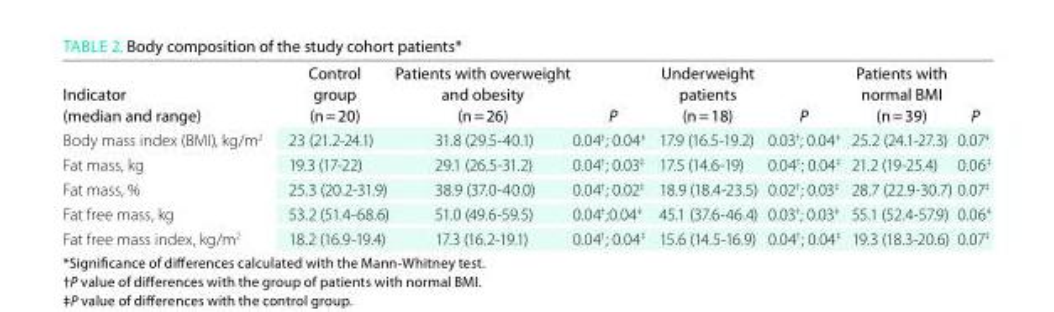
<table><thead><tr><td>indicator (median and range)</td><td>Control group (n = 20)</td><td>Patients with overweight and obesity (n = 26)</td><td>P</td><td>underweight patients (n = 18)</td><td>P</td><td>Patients with normal bMi (n = 39)</td><td>P</td></tr></thead><tbody><tr><td>Body mass index (BMI), kg/m<sup>2</sup></td><td>23 (21.2-24.1)</td><td>31.8 (29.5-40.1)</td><td>0.04<sup>†</sup>; 0.04<sup>‡</sup></td><td>17.9 (16.5-19.2)</td><td>0.03<sup>†</sup>; 0.04<sup>‡</sup></td><td>25.2 (24.1-27.3)</td><td>0.07<sup>‡</sup></td></tr><tr><td>Fat mass, kg</td><td>19.3 (17-22)</td><td>29.1 (26.5-31.2)</td><td>0.04<sup>†</sup>; 0.03<sup>‡</sup></td><td>17.5 (14.6-19)</td><td>0.04<sup>†</sup>; 0.04<sup>‡</sup></td><td>21.2 (19-25.4)</td><td>0.06<sup>‡</sup></td></tr><tr><td>Fat mass, %</td><td>25.3 (20.2-31.9)</td><td>38.9 (37.0-40.0)</td><td>0.04<sup>†</sup>; 0.02<sup>‡</sup></td><td>18.9 (18.4-23.5)</td><td>0.02<sup>†</sup>; 0.03<sup>‡</sup></td><td>28.7 (22.9-30.7)</td><td>0.07<sup>‡</sup></td></tr><tr><td>Fat free mass, kg</td><td>53.2 (51.4-68.6)</td><td>51.0 (49.6-59.5)</td><td>0.04<sup>†</sup>;0.04<sup>‡</sup></td><td>45.1 (37.6-46.4)</td><td>0.03<sup>†</sup>; 0.03<sup>‡</sup></td><td>55.1 (52.4-57.9)</td><td>0.06<sup>‡</sup></td></tr><tr><td>Fat free mass index, kg/m<sup>2</sup></td><td>18.2 (16.9-19.4)</td><td>17.3 (16.2-19.1)</td><td>0.04<sup>†</sup>; 0.04<sup>‡</sup></td><td>15.6 (14.5-16.9)</td><td>0.04<sup>†</sup>; 0.04<sup>‡</sup></td><td>19.3 (18.3-20.6)</td><td>0.07<sup>‡</sup></td></tr></tbody></table>